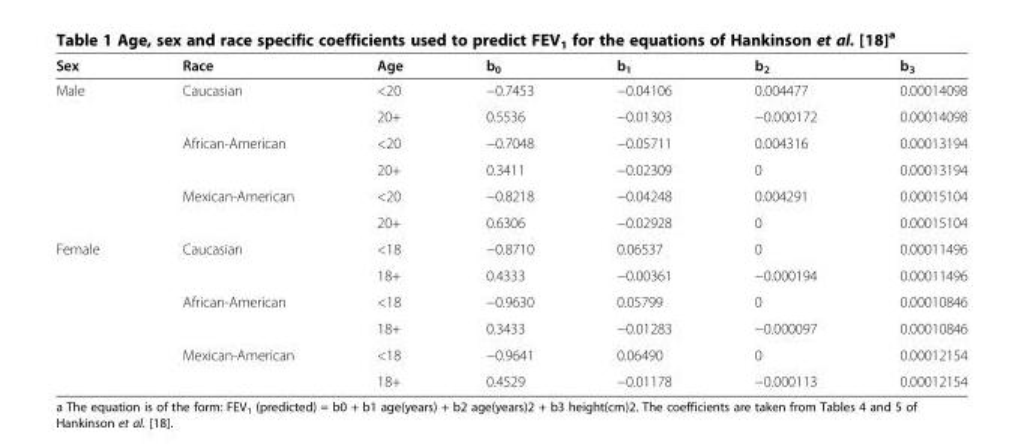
<table><thead><tr><td>Sex</td><td>Race</td><td>Age</td><td>b<sub>0</sub></td><td>b<sub>1</sub></td><td>b<sub>2</sub></td><td>b<sub>3</sub></td></tr></thead><tbody><tr><td rowspan="6">Male</td><td>Caucasian</td><td>&lt;20</td><td>−0.7453</td><td>−0.04106</td><td>0.004477</td><td>0.00014098</td></tr><tr><td></td><td>20+</td><td>0.5536</td><td>−0.01303</td><td>−0.000172</td><td>0.00014098</td></tr><tr><td>African-American</td><td>&lt;20</td><td>−0.7048</td><td>−0.05711</td><td>0.004316</td><td>0.00013194</td></tr><tr><td></td><td>20+</td><td>0.3411</td><td>−0.02309</td><td>0</td><td>0.00013194</td></tr><tr><td>Mexican-American</td><td>&lt;20</td><td>−0.8218</td><td>−0.04248</td><td>0.004291</td><td>0.00015104</td></tr><tr><td></td><td>20+</td><td>0.6306</td><td>−0.02928</td><td>0</td><td>0.00015104</td></tr><tr><td rowspan="6">Female</td><td>Caucasian</td><td>&lt;18</td><td>−0.8710</td><td>0.06537</td><td>0</td><td>0.00011496</td></tr><tr><td></td><td>18+</td><td>0.4333</td><td>−0.00361</td><td>−0.000194</td><td>0.00011496</td></tr><tr><td>African-American</td><td>&lt;18</td><td>−0.9630</td><td>0.05799</td><td>0</td><td>0.00010846</td></tr><tr><td></td><td>18+</td><td>0.3433</td><td>−0.01283</td><td>−0.000097</td><td>0.00010846</td></tr><tr><td>Mexican-American</td><td>&lt;18</td><td>−0.9641</td><td>0.06490</td><td>0</td><td>0.00012154</td></tr><tr><td></td><td>18+</td><td>0.4529</td><td>−0.01178</td><td>−0.000113</td><td>0.00012154</td></tr></tbody></table>